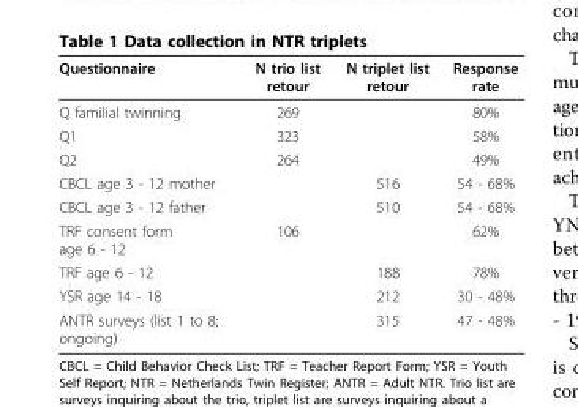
<table><thead><tr><td>Questionnaire</td><td>N trio list retour</td><td>N triplet list retour</td><td>Response rate</td></tr></thead><tbody><tr><td>Q familial twinning</td><td>269</td><td></td><td>80%</td></tr><tr><td>Q1</td><td>323</td><td></td><td>58%</td></tr><tr><td>Q2</td><td>264</td><td></td><td>49%</td></tr><tr><td>CBCL age 3 - 12 mother</td><td></td><td>516</td><td>54 - 68%</td></tr><tr><td>CBCL age 3 - 12 father</td><td></td><td>510</td><td>54 - 68%</td></tr><tr><td>TRF consent form age 6 - 12</td><td>106</td><td></td><td>62%</td></tr><tr><td>TRF age 6 - 12</td><td></td><td>188</td><td>78%</td></tr><tr><td>YSR age 14 - 18</td><td></td><td>212</td><td>30 - 48%</td></tr><tr><td>ANTR surveys (list 1 to 8; ongoing)</td><td></td><td>315</td><td>47 - 48%</td></tr></tbody></table>